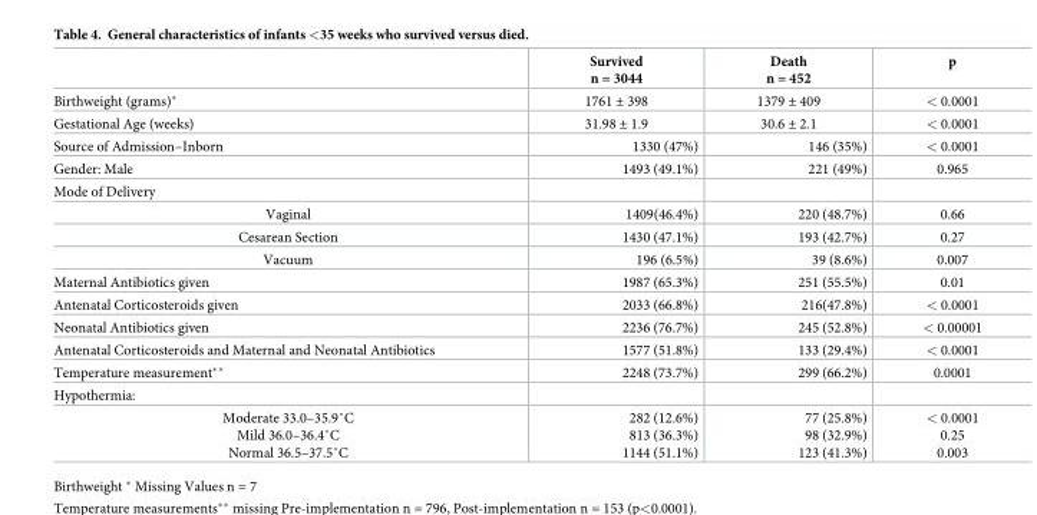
<table><thead><tr><td></td><td>Survived n = 3044</td><td>Death n = 452</td><td>p</td></tr></thead><tbody><tr><td>Birthweight (grams)*</td><td>1761 ± 398</td><td>1379 ± 409</td><td>&lt; 0.0001</td></tr><tr><td>Gestational Age (weeks)</td><td>31.98 ± 1.9</td><td>30.6 ± 2.1</td><td>&lt; 0.0001</td></tr><tr><td>Source of Admission–Inborn</td><td>1330 (47%)</td><td>146 (35%)</td><td>&lt; 0.0001</td></tr><tr><td>Gender: Male</td><td>1493 (49.1%)</td><td>221 (49%)</td><td>0.965</td></tr><tr><td colspan="4">Mode of Delivery</td></tr><tr><td>Vaginal</td><td>1409(46.4%)</td><td>220 (48.7%)</td><td>0.66</td></tr><tr><td>Cesarean Section</td><td>1430 (47.1%)</td><td>193 (42.7%)</td><td>0.27</td></tr><tr><td>Vacuum</td><td>196 (6.5%)</td><td>39 (8.6%)</td><td>0.007</td></tr><tr><td>Maternal Antibiotics given</td><td>1987 (65.3%)</td><td>251 (55.5%)</td><td>0.01</td></tr><tr><td>Antenatal Corticosteroids given</td><td>2033 (66.8%)</td><td>216(47.8%)</td><td>&lt; 0.0001</td></tr><tr><td>Neonatal Antibiotics given</td><td>2236 (76.7%)</td><td>245 (52.8%)</td><td>&lt; 0.00001</td></tr><tr><td>Antenatal Corticosteroids and Maternal and Neonatal Antibiotics</td><td>1577 (51.8%)</td><td>133 (29.4%)</td><td>&lt; 0.0001</td></tr><tr><td>Temperature measurement**</td><td>2248 (73.7%)</td><td>299 (66.2%)</td><td>0.0001</td></tr><tr><td colspan="4">Hypothermia:</td></tr><tr><td>Moderate 33.0–35.9˚C Mild 36.0–36.4˚C Normal 36.5–37.5˚C</td><td>282 (12.6%) 813 (36.3%) 1144 (51.1%)</td><td>77 (25.8%) 98 (32.9%) 123 (41.3%)</td><td>&lt; 0.0001 0.25 0.003</td></tr></tbody></table>